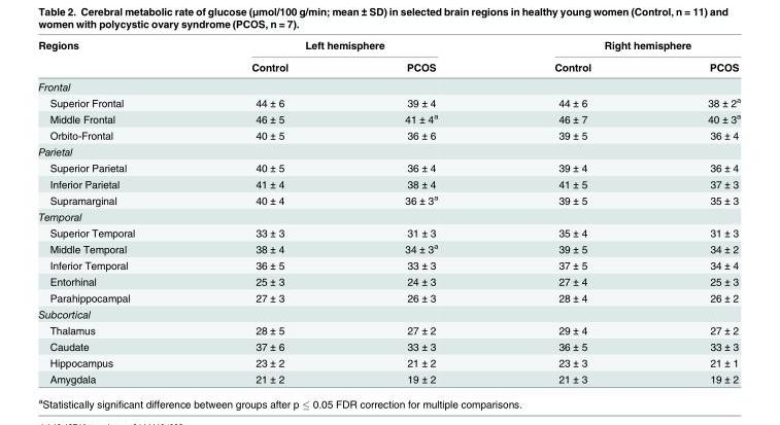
<table><thead><tr><td rowspan="2">Regions</td><td colspan="2">Left hemisphere</td><td colspan="2">Right hemisphere</td></tr><tr><td>Control</td><td>PCOS</td><td>Control</td><td>PCOS</td></tr></thead><tbody><tr><td colspan="5">Frontal</td></tr><tr><td>Superior Frontal</td><td>44 ± 6</td><td>39 ± 4</td><td>44 ± 6</td><td>38 ± 2<sup>a</sup></td></tr><tr><td>Middle Frontal</td><td>46 ± 5</td><td>41 ± 4<sup>a</sup></td><td>46 ± 7</td><td>40 ± 3<sup>a</sup></td></tr><tr><td>Orbito-Frontal</td><td>40 ± 5</td><td>36 ± 6</td><td>39 ± 5</td><td>36 ± 4</td></tr><tr><td colspan="5">Parietal</td></tr><tr><td>Superior Parietal</td><td>40 ± 5</td><td>36 ± 4</td><td>39 ± 4</td><td>36 ± 4</td></tr><tr><td>Inferior Parietal</td><td>41 ± 4</td><td>38 ± 4</td><td>41 ± 5</td><td>37 ± 3</td></tr><tr><td>Supramarginal</td><td>40 ± 4</td><td>36 ± 3<sup>a</sup></td><td>39 ± 5</td><td>35 ± 3</td></tr><tr><td colspan="5">Temporal</td></tr><tr><td>Superior Temporal</td><td>33 ± 3</td><td>31 ± 3</td><td>35 ± 4</td><td>31 ± 3</td></tr><tr><td>Middle Temporal</td><td>38 ± 4</td><td>34 ± 3<sup>a</sup></td><td>39 ± 5</td><td>34 ± 2</td></tr><tr><td>Inferior Temporal</td><td>36 ± 5</td><td>33 ± 3</td><td>37 ± 5</td><td>34 ± 4</td></tr><tr><td>Entorhinal</td><td>25 ± 3</td><td>24 ± 3</td><td>27 ± 4</td><td>25 ± 3</td></tr><tr><td>Parahippocampal</td><td>27 ± 3</td><td>26 ± 3</td><td>28 ± 4</td><td>26 ± 2</td></tr><tr><td colspan="5">Subcortical</td></tr><tr><td>Thalamus</td><td>28 ± 5</td><td>27 ± 2</td><td>29 ± 4</td><td>27 ± 2</td></tr><tr><td>Caudate</td><td>37 ± 6</td><td>33 ± 3</td><td>36 ± 5</td><td>33 ± 3</td></tr><tr><td>Hippocampus</td><td>23 ± 2</td><td>21 ± 2</td><td>23 ± 3</td><td>21 ± 1</td></tr><tr><td>Amygdala</td><td>21 ± 2</td><td>19 ± 2</td><td>21 ± 3</td><td>19 ± 2</td></tr></tbody></table>